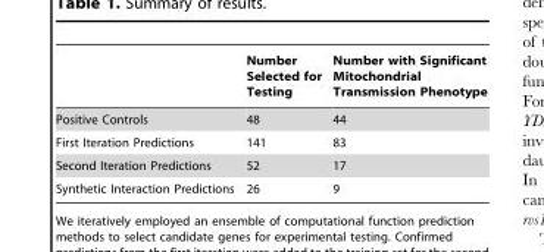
<table><thead><tr><td></td><td>Number Selected for Testing</td><td>Number with Significant Mitochondrial Transmission Phenotype</td></tr></thead><tbody><tr><td>Positive Controls</td><td>48</td><td>44</td></tr><tr><td>First Iteration Predictions</td><td>141</td><td>83</td></tr><tr><td>Second Iteration Predictions</td><td>52</td><td>17</td></tr><tr><td>Synthetic Interaction Predictions</td><td>26</td><td>9</td></tr></tbody></table>